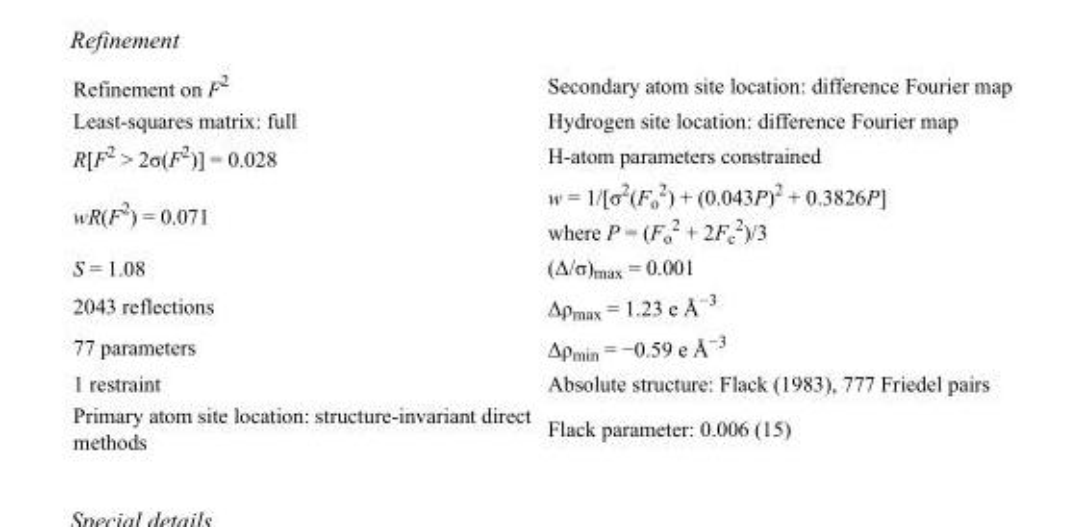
<table><tbody><tr><td>Refinement on F<sup>2</sup></td><td>Secondary atom site location: difference Fourier map</td></tr><tr><td>Least-squares matrix: full</td><td>Hydrogen site location: difference Fourier map</td></tr><tr><td>R[F<sup>2</sup> &gt; 2σ(F<sup>2</sup>)] = 0.028</td><td>H-atom parameters constrained</td></tr><tr><td>wR(F<sup>2</sup>) = 0.071</td><td>w = 1/[σ<sup>2</sup>(F<sub>o</sub> <sup>2</sup>) + (0.043P)<sup>2</sup> + 0.3826P] where P = (F<sub>o</sub> <sup>2</sup> + 2F<sub>c</sub> <sup>2</sup>)/3</td></tr><tr><td>S = 1.08</td><td>(Δ/σ)<sub>max</sub> = 0.001</td></tr><tr><td>2043 reflections</td><td>Δρ<sub>max</sub> = 1.23 e Å<sup>−3</sup></td></tr><tr><td>77 parameters</td><td>Δρ<sub>min</sub> = −0.59 e Å<sup>−3</sup></td></tr><tr><td>1 restraint</td><td>Absolute structure: Flack (1983), 777 Friedel pairs</td></tr><tr><td>Primary atom site location: structure-invariant direct methods</td><td>Flack parameter: 0.006 (15)</td></tr></tbody></table>